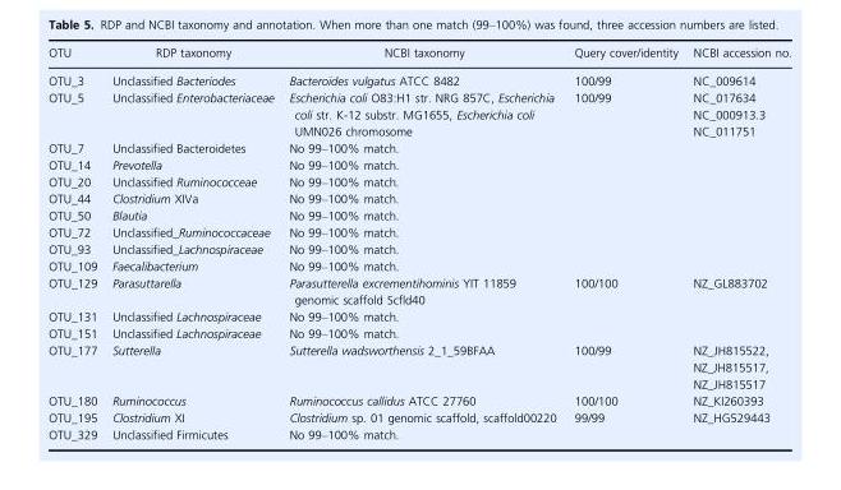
<table><thead><tr><td>OTU</td><td>RDP taxonomy</td><td>NCBI taxonomy</td><td>Query cover/identity</td><td>NCBI accession no.</td></tr></thead><tbody><tr><td>OTU_3</td><td>Unclassified Bacteriodes</td><td>Bacteroides vulgatus ATCC 8482</td><td>100/99</td><td>NC_009614</td></tr><tr><td>OTU_5</td><td>Unclassified Enterobacteriaceae</td><td>Escherichia coli O83:H1 str. NRG 857C, Escherichia coli str. K-12 substr. MG1655, Escherichia coli UMN026 chromosome</td><td>100/99</td><td>NC_017634 NC_000913.3 NC_011751</td></tr><tr><td>OTU_7</td><td>Unclassified Bacteroidetes</td><td>No 99–100% match.</td><td></td><td></td></tr><tr><td>OTU_14</td><td>Prevotella</td><td>No 99–100% match.</td><td></td><td></td></tr><tr><td>OTU_20</td><td>Unclassified Ruminococceae</td><td>No 99–100% match.</td><td></td><td></td></tr><tr><td>OTU_44</td><td>Clostridium XIVa</td><td>No 99–100% match.</td><td></td><td></td></tr><tr><td>OTU_50</td><td>Blautia</td><td>No 99–100% match.</td><td></td><td></td></tr><tr><td>OTU_72</td><td>Unclassified_Ruminococcaceae</td><td>No 99–100% match.</td><td></td><td></td></tr><tr><td>OTU_93</td><td>Unclassified_Lachnospiraceae</td><td>No 99–100% match.</td><td></td><td></td></tr><tr><td>OTU_109</td><td>Faecalibacterium</td><td>No 99–100% match.</td><td></td><td></td></tr><tr><td>OTU_129</td><td>Parasuttarella</td><td>Parasutterella excrementihominis YIT 11859 genomic scaffold Scfld40</td><td>100/100</td><td>NZ_GL883702</td></tr><tr><td>OTU_131</td><td>Unclassified Lachnospiraceae</td><td>No 99–100% match.</td><td></td><td></td></tr><tr><td>OTU_151</td><td>Unclassified Lachnospiraceae</td><td>No 99–100% match.</td><td></td><td></td></tr><tr><td>OTU_177</td><td>Sutterella</td><td>Sutterella wadsworthensis 2_1_59BFAA</td><td>100/99</td><td>NZ_JH815522, NZ_JH815517, NZ_JH815517</td></tr><tr><td>OTU_180</td><td>Ruminococcus</td><td>Ruminococcus callidus ATCC 27760</td><td>100/100</td><td>NZ_KI260393</td></tr><tr><td>OTU_195</td><td>Clostridium XI</td><td>Clostridium sp. 01 genomic scaffold, scaffold00220</td><td>99/99</td><td>NZ_HG529443</td></tr><tr><td>OTU_329</td><td>Unclassified Firmicutes</td><td>No 99–100% match.</td><td></td><td></td></tr></tbody></table>